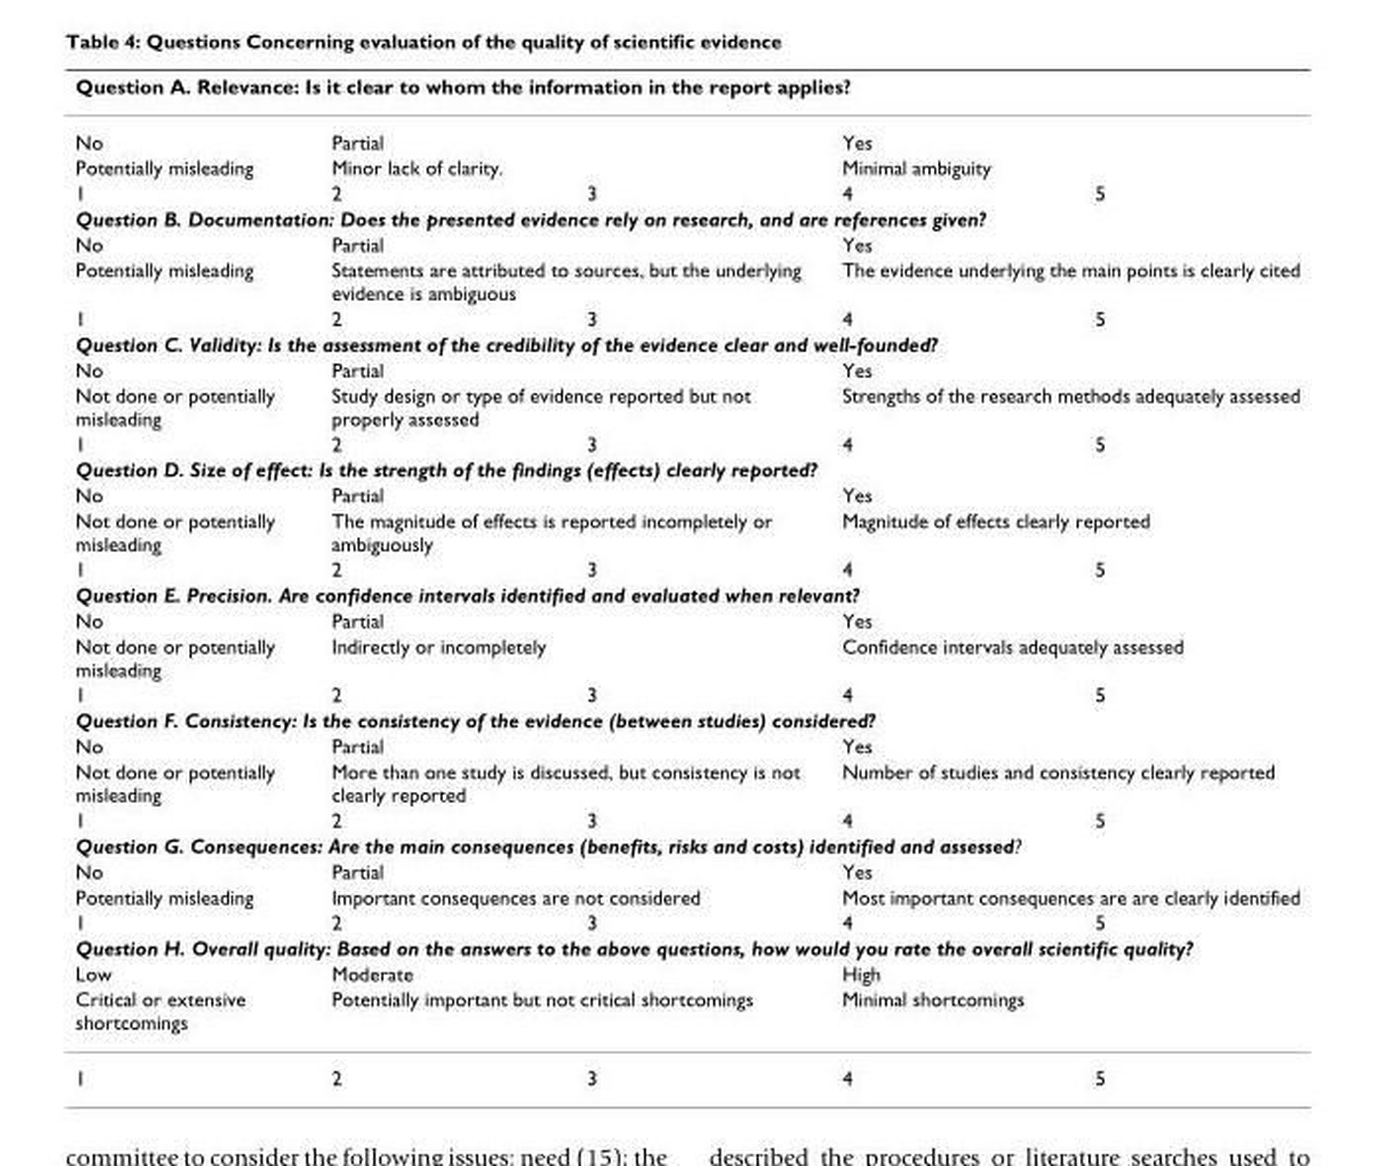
<table><thead><tr><td colspan="5">Question A. Relevance: Is it clear to whom the information in the report applies?</td></tr><tr><td>No</td><td>Partial</td><td></td><td>Yes</td><td></td></tr></thead><tbody><tr><td>Potentially misleading</td><td colspan="2">Minor lack of clarity.</td><td colspan="2">Minimal ambiguity</td></tr><tr><td>1</td><td>2</td><td>3</td><td>4</td><td>5</td></tr><tr><td colspan="5">Question B. Documentation: Does the presented evidence rely on research, and are references given?</td></tr><tr><td>No</td><td>Partial</td><td></td><td>Yes</td><td></td></tr><tr><td>Potentially misleading</td><td colspan="2">Statements are attributed to sources, but the underlying evidence is ambiguous</td><td colspan="2">The evidence underlying the main points is clearly cited</td></tr><tr><td>1</td><td>2</td><td>3</td><td>4</td><td>5</td></tr><tr><td colspan="5">Question C. Validity: Is the assessment of the credibility of the evidence clear and well-founded?</td></tr><tr><td>No</td><td>Partial</td><td></td><td>Yes</td><td></td></tr><tr><td>Not done or potentially misleading</td><td colspan="2">Study design or type of evidence reported but not properly assessed</td><td colspan="2">Strengths of the research methods adequately assessed</td></tr><tr><td>1</td><td>2</td><td>3</td><td>4</td><td>5</td></tr><tr><td colspan="5">Question D. Size of effect: Is the strength of the findings (effects) clearly reported?</td></tr><tr><td>No</td><td>Partial</td><td></td><td>Yes</td><td></td></tr><tr><td>Not done or potentially misleading</td><td colspan="2">The magnitude of effects is reported incompletely or ambiguously</td><td colspan="2">Magnitude of effects clearly reported</td></tr><tr><td>1</td><td>2</td><td>3</td><td>4</td><td>5</td></tr><tr><td colspan="5">Question E. Precision. Are confidence intervals identified and evaluated when relevant?</td></tr><tr><td>No</td><td>Partial</td><td></td><td>Yes</td><td></td></tr><tr><td>Not done or potentially misleading</td><td colspan="2">Indirectly or incompletely</td><td colspan="2">Confidence intervals adequately assessed</td></tr><tr><td>1</td><td>2</td><td>3</td><td>4</td><td>5</td></tr><tr><td colspan="5">Question F. Consistency: Is the consistency of the evidence (between studies) considered?</td></tr><tr><td>No</td><td>Partial</td><td></td><td>Yes</td><td></td></tr><tr><td>Not done or potentially misleading</td><td colspan="2">More than one study is discussed, but consistency is not clearly reported</td><td colspan="2">Number of studies and consistency clearly reported</td></tr><tr><td>1</td><td>2</td><td>3</td><td>4</td><td>5</td></tr><tr><td colspan="5">Question G. Consequences: Are the main consequences (benefits, risks and costs) identified and assessed?</td></tr><tr><td>No</td><td>Partial</td><td></td><td>Yes</td><td></td></tr><tr><td>Potentially misleading</td><td colspan="2">Important consequences are not considered</td><td colspan="2">Most important consequences are are clearly identified</td></tr><tr><td>1</td><td>2</td><td>3</td><td>4</td><td>5</td></tr><tr><td colspan="5">Question H. Overall quality: Based on the answers to the above questions, how would you rate the overall scientific quality?</td></tr><tr><td>Low</td><td>Moderate</td><td></td><td>High</td><td></td></tr><tr><td>Critical or extensive shortcomings</td><td colspan="2">Potentially important but not critical shortcomings</td><td colspan="2">Minimal shortcomings</td></tr><tr><td>1</td><td>2</td><td>3</td><td>4</td><td>5</td></tr></tbody></table>